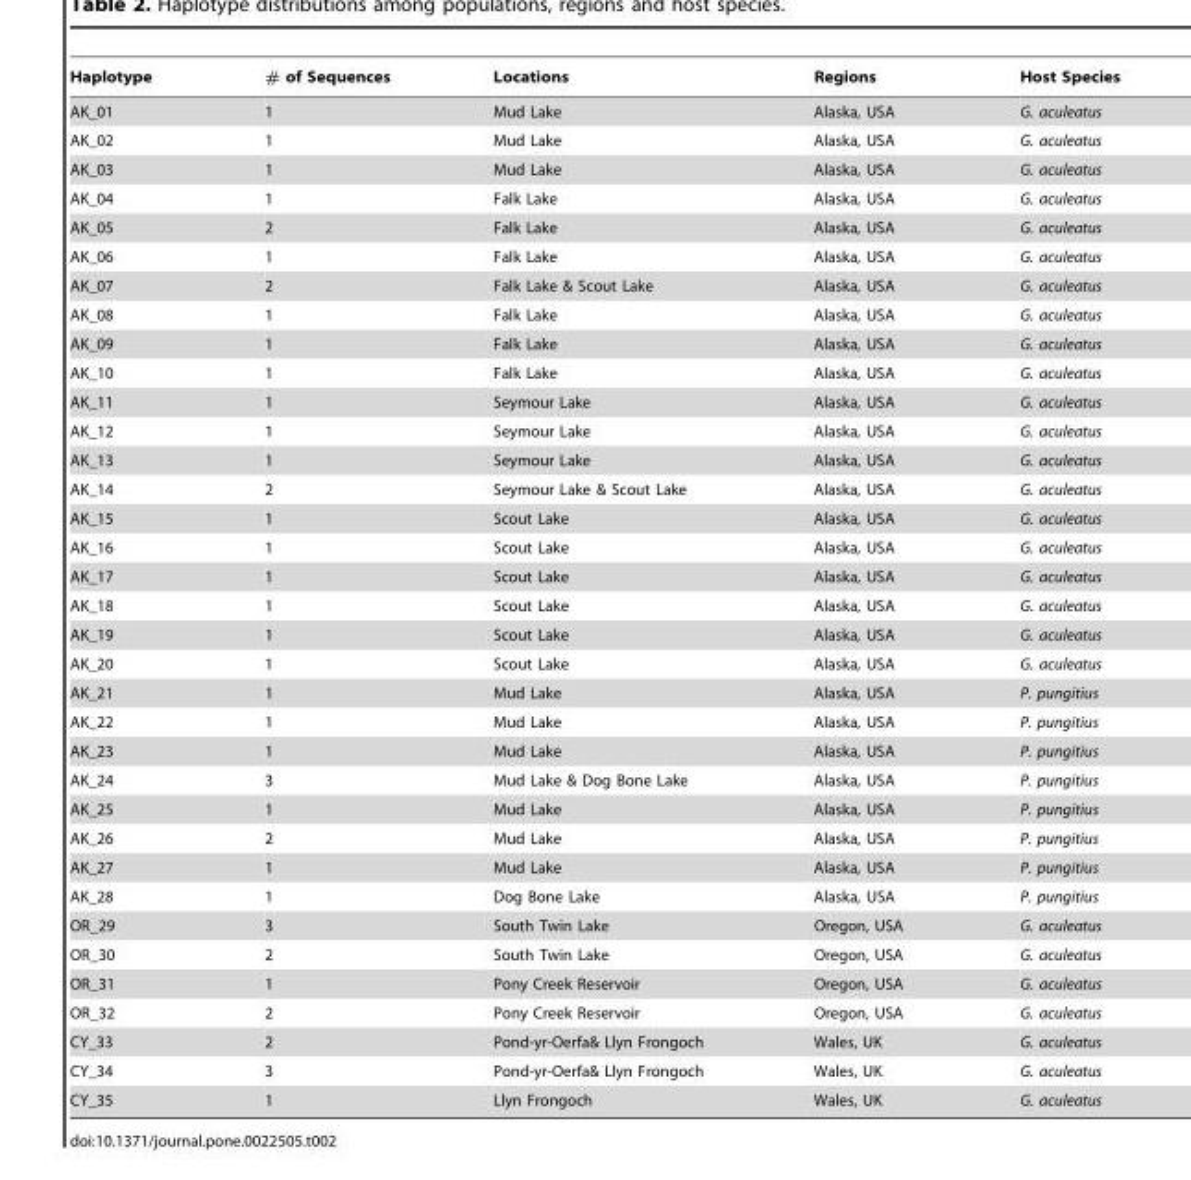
<table><thead><tr><td>Haplotype</td><td># of Sequences</td><td>Locations</td><td>Regions</td><td>Host Species</td></tr></thead><tbody><tr><td>AK_01</td><td>1</td><td>Mud Lake</td><td>Alaska, USA</td><td>G. aculeatus</td></tr><tr><td>AK_02</td><td>1</td><td>Mud Lake</td><td>Alaska, USA</td><td>G. aculeatus</td></tr><tr><td>AK_03</td><td>1</td><td>Mud Lake</td><td>Alaska, USA</td><td>G. aculeatus</td></tr><tr><td>AK_04</td><td>1</td><td>Falk Lake</td><td>Alaska, USA</td><td>G. aculeatus</td></tr><tr><td>AK_05</td><td>2</td><td>Falk Lake</td><td>Alaska, USA</td><td>G. aculeatus</td></tr><tr><td>AK_06</td><td>1</td><td>Falk Lake</td><td>Alaska, USA</td><td>G. aculeatus</td></tr><tr><td>AK_07</td><td>2</td><td>Falk Lake &amp; Scout Lake</td><td>Alaska, USA</td><td>G. aculeatus</td></tr><tr><td>AK_08</td><td>1</td><td>Falk Lake</td><td>Alaska, USA</td><td>G. aculeatus</td></tr><tr><td>AK_09</td><td>1</td><td>Falk Lake</td><td>Alaska, USA</td><td>G. aculeatus</td></tr><tr><td>AK_10</td><td>1</td><td>Falk Lake</td><td>Alaska, USA</td><td>G. aculeatus</td></tr><tr><td>AK_11</td><td>1</td><td>Seymour Lake</td><td>Alaska, USA</td><td>G. aculeatus</td></tr><tr><td>AK_12</td><td>1</td><td>Seymour Lake</td><td>Alaska, USA</td><td>G. aculeatus</td></tr><tr><td>AK_13</td><td>1</td><td>Seymour Lake</td><td>Alaska, USA</td><td>G. aculeatus</td></tr><tr><td>AK_14</td><td>2</td><td>Seymour Lake &amp; Scout Lake</td><td>Alaska, USA</td><td>G. aculeatus</td></tr><tr><td>AK_15</td><td>1</td><td>Scout Lake</td><td>Alaska, USA</td><td>G. aculeatus</td></tr><tr><td>AK_16</td><td>1</td><td>Scout Lake</td><td>Alaska, USA</td><td>G. aculeatus</td></tr><tr><td>AK_17</td><td>1</td><td>Scout Lake</td><td>Alaska, USA</td><td>G. aculeatus</td></tr><tr><td>AK_18</td><td>1</td><td>Scout Lake</td><td>Alaska, USA</td><td>G. aculeatus</td></tr><tr><td>AK_19</td><td>1</td><td>Scout Lake</td><td>Alaska, USA</td><td>G. aculeatus</td></tr><tr><td>AK_20</td><td>1</td><td>Scout Lake</td><td>Alaska, USA</td><td>G. aculeatus</td></tr><tr><td>AK_21</td><td>1</td><td>Mud Lake</td><td>Alaska, USA</td><td>P. pungitius</td></tr><tr><td>AK_22</td><td>1</td><td>Mud Lake</td><td>Alaska, USA</td><td>P. pungitius</td></tr><tr><td>AK_23</td><td>1</td><td>Mud Lake</td><td>Alaska, USA</td><td>P. pungitius</td></tr><tr><td>AK_24</td><td>3</td><td>Mud Lake &amp; Dog Bone Lake</td><td>Alaska, USA</td><td>P. pungitius</td></tr><tr><td>AK_25</td><td>1</td><td>Mud Lake</td><td>Alaska, USA</td><td>P. pungitius</td></tr><tr><td>AK_26</td><td>2</td><td>Mud Lake</td><td>Alaska, USA</td><td>P. pungitius</td></tr><tr><td>AK_27</td><td>1</td><td>Mud Lake</td><td>Alaska, USA</td><td>P. pungitius</td></tr><tr><td>AK_28</td><td>1</td><td>Dog Bone Lake</td><td>Alaska, USA</td><td>P. pungitius</td></tr><tr><td>OR_29</td><td>3</td><td>South Twin Lake</td><td>Oregon, USA</td><td>G. aculeatus</td></tr><tr><td>OR_30</td><td>2</td><td>South Twin Lake</td><td>Oregon, USA</td><td>G. aculeatus</td></tr><tr><td>OR_31</td><td>1</td><td>Pony Creek Reservoir</td><td>Oregon, USA</td><td>G. aculeatus</td></tr><tr><td>OR_32</td><td>2</td><td>Pony Creek Reservoir</td><td>Oregon, USA</td><td>G. aculeatus</td></tr><tr><td>CY_33</td><td>2</td><td>Pond-yr-Oerfa&amp; Llyn Frongoch</td><td>Wales, UK</td><td>G. aculeatus</td></tr><tr><td>CY_34</td><td>3</td><td>Pond-yr-Oerfa&amp; Llyn Frongoch</td><td>Wales, UK</td><td>G. aculeatus</td></tr><tr><td>CY_35</td><td>1</td><td>Llyn Frongoch</td><td>Wales, UK</td><td>G. aculeatus</td></tr></tbody></table>